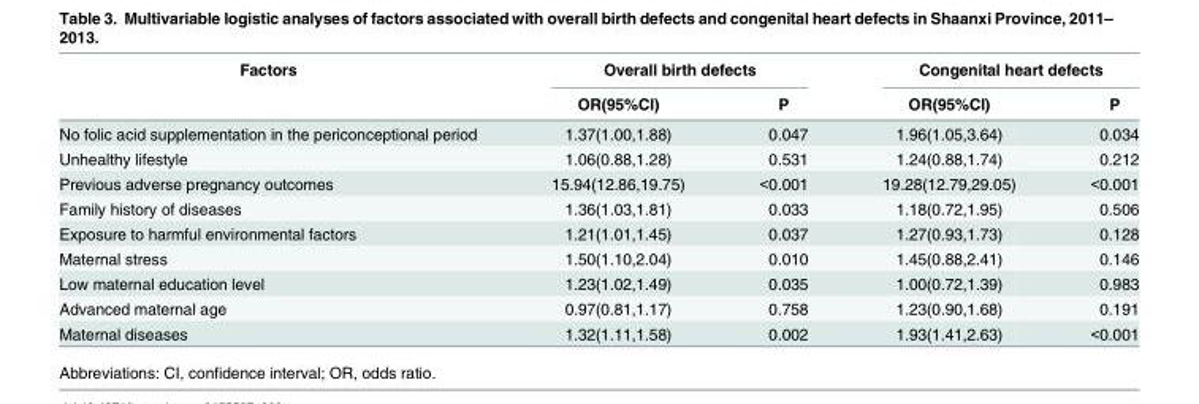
<table><thead><tr><td rowspan="2">Factors</td><td colspan="2">Overall birth defects</td><td colspan="2">Congenital heart defects</td></tr><tr><td>OR(95%CI)</td><td>P</td><td>OR(95%CI)</td><td>P</td></tr></thead><tbody><tr><td>No folic acid supplementation in the periconceptional period</td><td>1.37(1.00,1.88)</td><td>0.047</td><td>1.96(1.05,3.64)</td><td>0.034</td></tr><tr><td>Unhealthy lifestyle</td><td>1.06(0.88,1.28)</td><td>0.531</td><td>1.24(0.88,1.74)</td><td>0.212</td></tr><tr><td>Previous adverse pregnancy outcomes</td><td>15.94(12.86,19.75)</td><td>&lt;0.001</td><td>19.28(12.79,29.05)</td><td>&lt;0.001</td></tr><tr><td>Family history of diseases</td><td>1.36(1.03,1.81)</td><td>0.033</td><td>1.18(0.72,1.95)</td><td>0.506</td></tr><tr><td>Exposure to harmful environmental factors</td><td>1.21(1.01,1.45)</td><td>0.037</td><td>1.27(0.93,1.73)</td><td>0.128</td></tr><tr><td>Maternal stress</td><td>1.50(1.10,2.04)</td><td>0.010</td><td>1.45(0.88,2.41)</td><td>0.146</td></tr><tr><td>Low maternal education level</td><td>1.23(1.02,1.49)</td><td>0.035</td><td>1.00(0.72,1.39)</td><td>0.983</td></tr><tr><td>Advanced maternal age</td><td>0.97(0.81,1.17)</td><td>0.758</td><td>1.23(0.90,1.68)</td><td>0.191</td></tr><tr><td>Maternal diseases</td><td>1.32(1.11,1.58)</td><td>0.002</td><td>1.93(1.41,2.63)</td><td>&lt;0.001</td></tr></tbody></table>